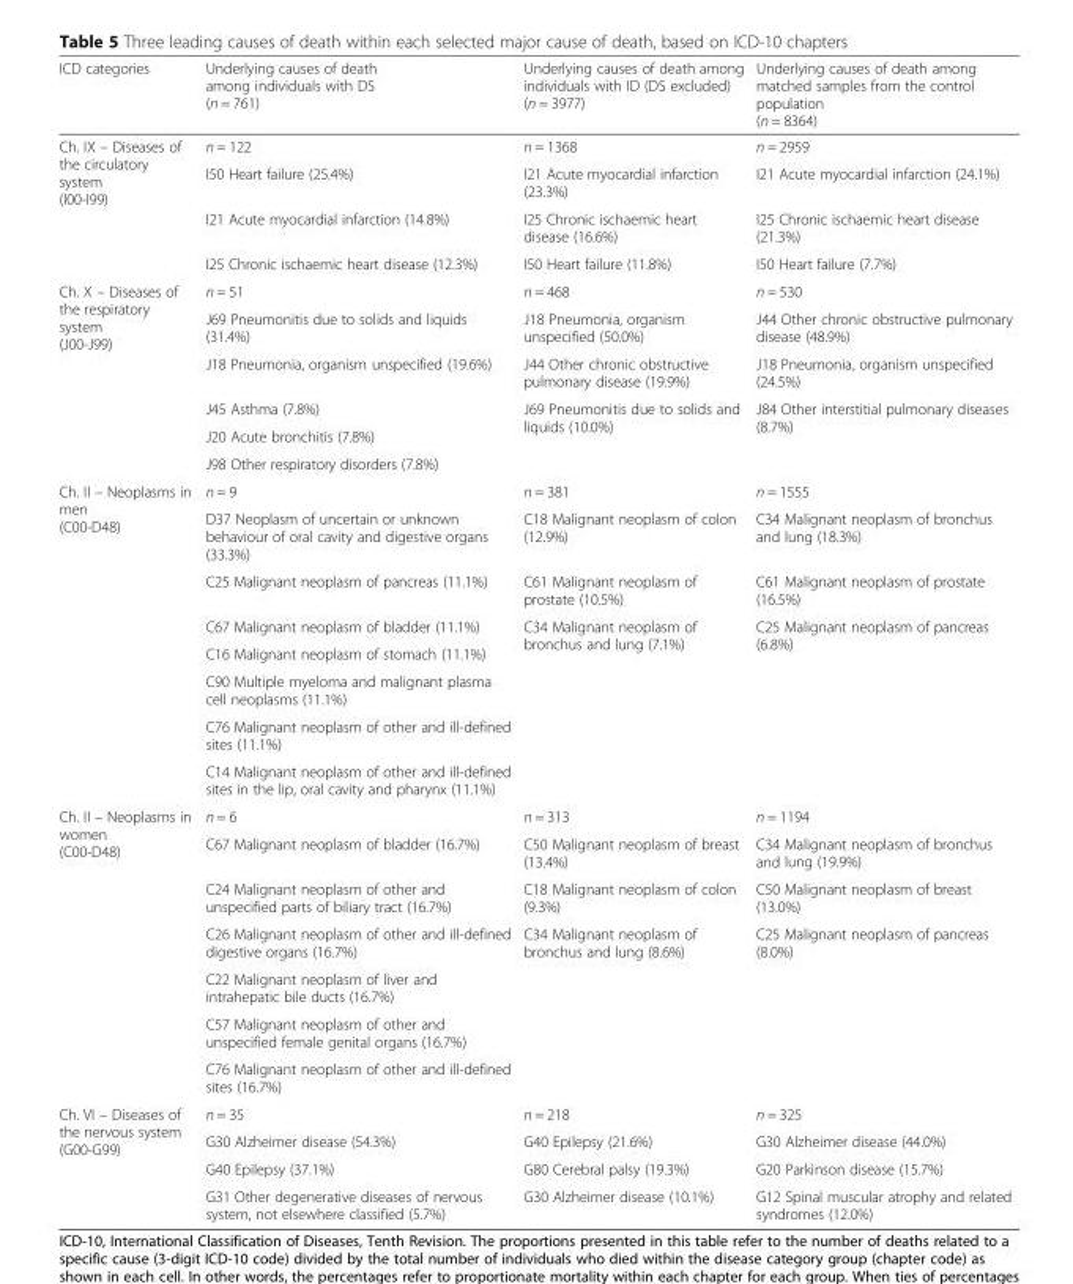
<table><thead><tr><td>ICD categories</td><td>Underlying causes of death among individuals with DS (n = 761)</td><td>Underlying causes of death among individuals with ID (DS excluded) (n = 3977)</td><td>Underlying causes of death among matched samples from the control population (n = 8364)</td></tr></thead><tbody><tr><td rowspan="4">Ch. IX – Diseases of the circulatory system (I00-I99)</td><td>n = 122</td><td>n = 1368</td><td>n = 2959</td></tr><tr><td>I50 Heart failure (25.4%)</td><td>I21 Acute myocardial infarction (23.3%)</td><td>I21 Acute myocardial infarction (24.1%)</td></tr><tr><td>I21 Acute myocardial infarction (14.8%)</td><td>I25 Chronic ischaemic heart disease (16.6%)</td><td>I25 Chronic ischaemic heart disease (21.3%)</td></tr><tr><td>I25 Chronic ischaemic heart disease (12.3%)</td><td>I50 Heart failure (11.8%)</td><td>I50 Heart failure (7.7%)</td></tr><tr><td rowspan="6">Ch. X – Diseases of the respiratory system (J00-J99)</td><td>n = 51</td><td>n = 468</td><td>n = 530</td></tr><tr><td>J69 Pneumonitis due to solids and liquids (31.4%)</td><td>J18 Pneumonia, organism unspecified (50.0%)</td><td>J44 Other chronic obstructive pulmonary disease (48.9%)</td></tr><tr><td>J18 Pneumonia, organism unspecified (19.6%)</td><td>J44 Other chronic obstructive pulmonary disease (19.9%)</td><td>J18 Pneumonia, organism unspecified (24.5%)</td></tr><tr><td>J45 Asthma (7.8%)</td><td rowspan="3">J69 Pneumonitis due to solids and liquids (10.0%)</td><td rowspan="3">J84 Other interstitial pulmonary diseases (8.7%)</td></tr><tr><td>J20 Acute bronchitis (7.8%)</td></tr><tr><td>J98 Other respiratory disorders (7.8%)</td></tr><tr><td rowspan="8">Ch. II – Neoplasms in men (C00-D48)</td><td>n = 9</td><td>n = 381</td><td>n = 1555</td></tr><tr><td>D37 Neoplasm of uncertain or unknown behaviour of oral cavity and digestive organs (33.3%)</td><td>C18 Malignant neoplasm of colon (12.9%)</td><td>C34 Malignant neoplasm of bronchus and lung (18.3%)</td></tr><tr><td>C25 Malignant neoplasm of pancreas (11.1%)</td><td>C61 Malignant neoplasm of prostate (10.5%)</td><td>C61 Malignant neoplasm of prostate (16.5%)</td></tr><tr><td>C67 Malignant neoplasm of bladder (11.1%)</td><td rowspan="5">C34 Malignant neoplasm of bronchus and lung (7.1%)</td><td rowspan="5">C25 Malignant neoplasm of pancreas (6.8%)</td></tr><tr><td>C16 Malignant neoplasm of stomach (11.1%)</td></tr><tr><td>C90 Multiple myeloma and malignant plasma cell neoplasms (11.1%)</td></tr><tr><td>C76 Malignant neoplasm of other and ill-defined sites (11.1%)</td></tr><tr><td>C14 Malignant neoplasm of other and ill-defined sites in the lip, oral cavity and pharynx (11.1%)</td></tr><tr><td rowspan="7">Ch. II – Neoplasms in women (C00-D48)</td><td>n = 6</td><td>n = 313</td><td>n = 1194</td></tr><tr><td>C67 Malignant neoplasm of bladder (16.7%)</td><td>C50 Malignant neoplasm of breast (13.4%)</td><td>C34 Malignant neoplasm of bronchus and lung (19.9%)</td></tr><tr><td>C24 Malignant neoplasm of other and unspecified parts of biliary tract (16.7%)</td><td>C18 Malignant neoplasm of colon (9.3%)</td><td>C50 Malignant neoplasm of breast (13.0%)</td></tr><tr><td>C26 Malignant neoplasm of other and ill-defined digestive organs (16.7%)</td><td rowspan="4">C34 Malignant neoplasm of bronchus and lung (8.6%)</td><td rowspan="4">C25 Malignant neoplasm of pancreas (8.0%)</td></tr><tr><td>C22 Malignant neoplasm of liver and intrahepatic bile ducts (16.7%)</td></tr><tr><td>C57 Malignant neoplasm of other and unspecified female genital organs (16.7%)</td></tr><tr><td>C76 Malignant neoplasm of other and ill-defined sites (16.7%)</td></tr><tr><td rowspan="4">Ch. VI – Diseases of the nervous system (G00-G99)</td><td>n = 35</td><td>n = 218</td><td>n = 325</td></tr><tr><td>G30 Alzheimer disease (54.3%)</td><td>G40 Epilepsy (21.6%)</td><td>G30 Alzheimer disease (44.0%)</td></tr><tr><td>G40 Epilepsy (37.1%)</td><td>G80 Cerebral palsy (19.3%)</td><td>G20 Parkinson disease (15.7%)</td></tr><tr><td>G31 Other degenerative diseases of nervous system, not elsewhere classified (5.7%)</td><td>G30 Alzheimer disease (10.1%)</td><td>G12 Spinal muscular atrophy and related syndromes (12.0%)</td></tr></tbody></table>